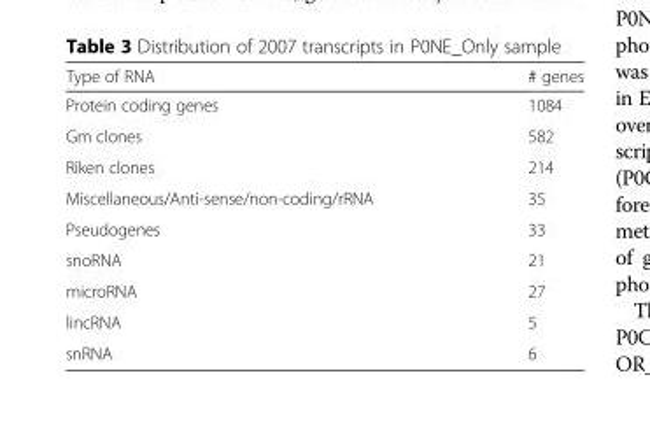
<table><thead><tr><td>Type of RNA</td><td># genes</td></tr></thead><tbody><tr><td>Protein coding genes</td><td>1084</td></tr><tr><td>Gm clones</td><td>582</td></tr><tr><td>Riken clones</td><td>214</td></tr><tr><td>Miscellaneous/Anti-sense/non-coding/rRNA</td><td>35</td></tr><tr><td>Pseudogenes</td><td>33</td></tr><tr><td>snoRNA</td><td>21</td></tr><tr><td>microRNA</td><td>27</td></tr><tr><td>lincRNA</td><td>5</td></tr><tr><td>snRNA</td><td>6</td></tr></tbody></table>